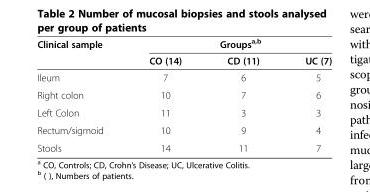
<table><thead><tr><td rowspan="2">Clinical sample</td><td colspan="3">Groups<sup>a,b</sup></td></tr><tr><td>CO (14)</td><td>CD (11)</td><td>UC (7)</td></tr></thead><tbody><tr><td>Ileum</td><td>7</td><td>6</td><td>5</td></tr><tr><td>Right colon</td><td>10</td><td>7</td><td>6</td></tr><tr><td>Left Colon</td><td>11</td><td>3</td><td>3</td></tr><tr><td>Rectum/sigmoid</td><td>10</td><td>9</td><td>4</td></tr><tr><td>Stools</td><td>14</td><td>11</td><td>7</td></tr></tbody></table>